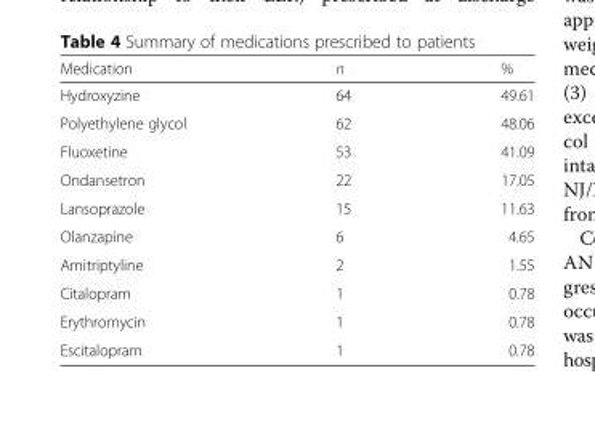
<table><thead><tr><td>Medication</td><td>n</td><td>%</td></tr></thead><tbody><tr><td>Hydroxyzine</td><td>64</td><td>49.61</td></tr><tr><td>Polyethylene glycol</td><td>62</td><td>48.06</td></tr><tr><td>Fluoxetine</td><td>53</td><td>41.09</td></tr><tr><td>Ondansetron</td><td>22</td><td>17.05</td></tr><tr><td>Lansoprazole</td><td>15</td><td>11.63</td></tr><tr><td>Olanzapine</td><td>6</td><td>4.65</td></tr><tr><td>Amitriptyline</td><td>2</td><td>1.55</td></tr><tr><td>Citalopram</td><td>1</td><td>0.78</td></tr><tr><td>Erythromycin</td><td>1</td><td>0.78</td></tr><tr><td>Escitalopram</td><td>1</td><td>0.78</td></tr></tbody></table>